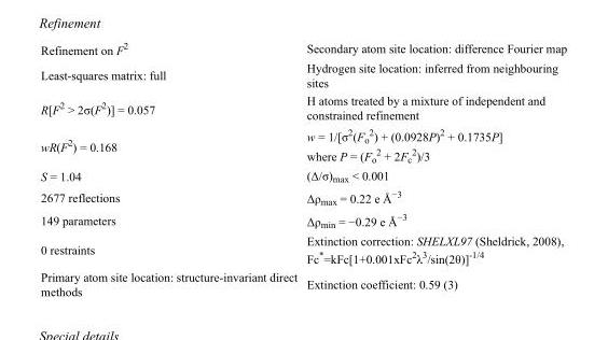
<table><tbody><tr><td>Refinement on F<sup>2</sup></td><td>Secondary atom site location: difference Fourier map</td></tr><tr><td>Least-squares matrix: full</td><td>Hydrogen site location: inferred from neighbouring sites</td></tr><tr><td>R[F<sup>2</sup> &gt; 2σ(F<sup>2</sup>)] = 0.057</td><td>H atoms treated by a mixture of independent and constrained refinement</td></tr><tr><td>wR(F<sup>2</sup>) = 0.168</td><td>w = 1/[σ<sup>2</sup>(F<sub>o</sub> <sup>2</sup>) + (0.0928P)<sup>2</sup> + 0.1735P] where P = (F<sub>o</sub> <sup>2</sup> + 2F<sub>c</sub> <sup>2</sup>)/3</td></tr><tr><td>S = 1.04</td><td>(Δ/σ)<sub>max</sub> &lt; 0.001</td></tr><tr><td>2677 reflections</td><td>Δρ<sub>max</sub> = 0.22 e Å<sup>−3</sup></td></tr><tr><td>149 parameters</td><td>Δρ<sub>min</sub> = −0.29 e Å<sup>−3</sup></td></tr><tr><td>0 restraints</td><td>Extinction correction: SHELXL97 (Sheldrick, 2008), Fc*=kFc[1+0.001xFc<sup>2</sup>λ<sup>3</sup>/sin(2θ)]<sup>-1/4</sup></td></tr><tr><td>Primary atom site location: structure-invariant direct methods</td><td>Extinction coefficient: 0.59 (3)</td></tr></tbody></table>